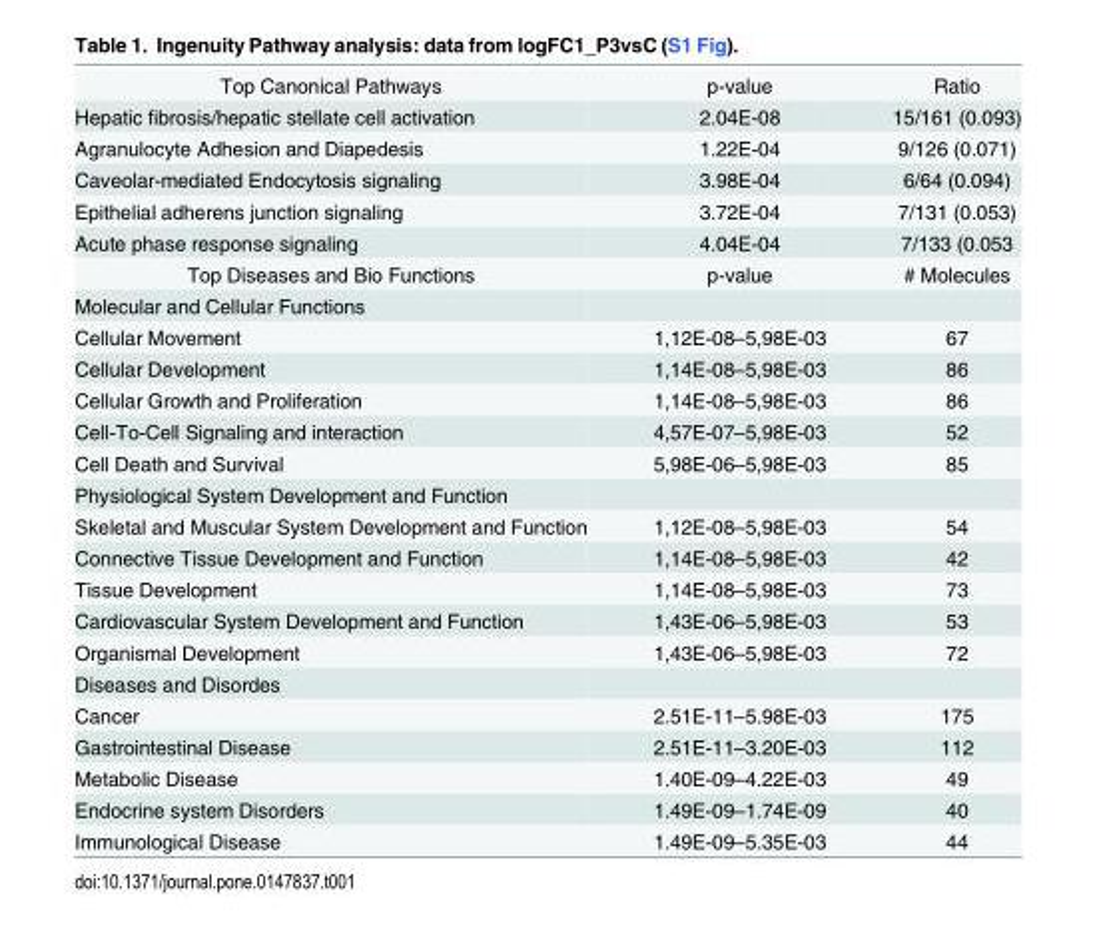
<table><tbody><tr><td>Top Canonical Pathways</td><td>p-value</td><td>Ratio</td></tr><tr><td>Hepatic fibrosis/hepatic stellate cell activation</td><td>2.04E-08</td><td>15/161 (0.093)</td></tr><tr><td>Agranulocyte Adhesion and Diapedesis</td><td>1.22E-04</td><td>9/126 (0.071)</td></tr><tr><td>Caveolar-mediated Endocytosis signaling</td><td>3.98E-04</td><td>6/64 (0.094)</td></tr><tr><td>Epithelial adherens junction signaling</td><td>3.72E-04</td><td>7/131 (0.053)</td></tr><tr><td>Acute phase response signaling</td><td>4.04E-04</td><td>7/133 (0.053</td></tr><tr><td>Top Diseases and Bio Functions</td><td>p-value</td><td># Molecules</td></tr><tr><td colspan="3">Molecular and Cellular Functions</td></tr><tr><td>Cellular Movement</td><td>1,12E-08–5,98E-03</td><td>67</td></tr><tr><td>Cellular Development</td><td>1,14E-08–5,98E-03</td><td>86</td></tr><tr><td>Cellular Growth and Proliferation</td><td>1,14E-08–5,98E-03</td><td>86</td></tr><tr><td>Cell-To-Cell Signaling and interaction</td><td>4,57E-07–5,98E-03</td><td>52</td></tr><tr><td>Cell Death and Survival</td><td>5,98E-06–5,98E-03</td><td>85</td></tr><tr><td colspan="3">Physiological System Development and Function</td></tr><tr><td>Skeletal and Muscular System Development and Function</td><td>1,12E-08–5,98E-03</td><td>54</td></tr><tr><td>Connective Tissue Development and Function</td><td>1,14E-08–5,98E-03</td><td>42</td></tr><tr><td>Tissue Development</td><td>1,14E-08–5,98E-03</td><td>73</td></tr><tr><td>Cardiovascular System Development and Function</td><td>1,43E-06–5,98E-03</td><td>53</td></tr><tr><td>Organismal Development</td><td>1,43E-06–5,98E-03</td><td>72</td></tr><tr><td colspan="3">Diseases and Disordes</td></tr><tr><td>Cancer</td><td>2.51E-11–5.98E-03</td><td>175</td></tr><tr><td>Gastrointestinal Disease</td><td>2.51E-11–3.20E-03</td><td>112</td></tr><tr><td>Metabolic Disease</td><td>1.40E-09–4.22E-03</td><td>49</td></tr><tr><td>Endocrine system Disorders</td><td>1.49E-09–1.74E-09</td><td>40</td></tr><tr><td>Immunological Disease</td><td>1.49E-09–5.35E-03</td><td>44</td></tr></tbody></table>